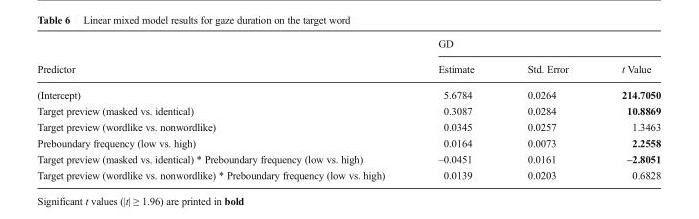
<table><thead><tr><td rowspan="2">Predictor</td><td colspan="3">GD</td></tr><tr><td>Estimate</td><td>Std. Error</td><td>t Value</td></tr></thead><tbody><tr><td>(Intercept)</td><td>5.6784</td><td>0.0264</td><td>214.7050</td></tr><tr><td>Target preview (masked vs. identical)</td><td>0.3087</td><td>0.0284</td><td>10.8869</td></tr><tr><td>Target preview (wordlike vs. nonwordlike)</td><td>0.0345</td><td>0.0257</td><td>1.3463</td></tr><tr><td>Preboundary frequency (low vs. high)</td><td>0.0164</td><td>0.0073</td><td>2.2558</td></tr><tr><td>Target preview (masked vs. identical) * Preboundary frequency (low vs. high)</td><td>–0.0451</td><td>0.0161</td><td>–2.8051</td></tr><tr><td>Target preview (wordlike vs. nonwordlike) * Preboundary frequency (low vs. high)</td><td>0.0139</td><td>0.0203</td><td>0.6828</td></tr></tbody></table>